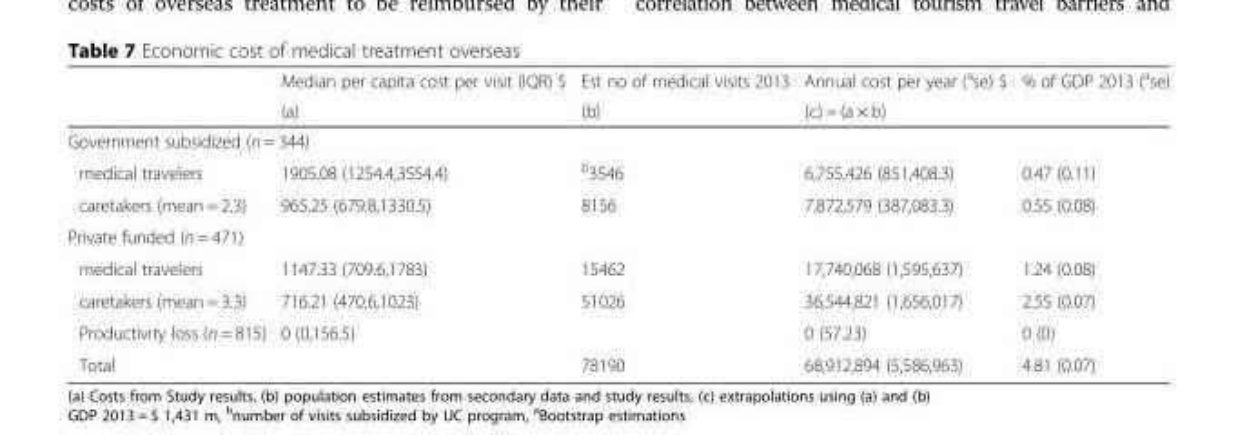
<table><thead><tr><td rowspan="2"></td><td rowspan="2">Median per capita cost per visit (IQR) $ (a)</td><td rowspan="2">Est no of medical visits 2013 (b)</td><td rowspan="2">Annual cost per year (<sup>a</sup>se) $ (c) = (a × b)</td><td rowspan="2">% of GDP 2013 (<sup>a</sup>se)</td></tr><tr></tr></thead><tbody><tr><td colspan="5">Government subsidized (n = 344)</td></tr><tr><td>medical travelers</td><td>1905.08 (1254.4,3554.4)</td><td><sup>b</sup>3546</td><td>6,755,426 (851,408.3)</td><td>0.47 (0.11)</td></tr><tr><td>caretakers (mean = 2.3)</td><td>965.25 (679.8,1330.5)</td><td>8156</td><td>7,872,579 (387,083.3)</td><td>0.55 (0.08)</td></tr><tr><td colspan="5">Private funded (n = 471)</td></tr><tr><td>medical travelers</td><td>1147.33 (709.6,1783)</td><td>15462</td><td>17,740,068 (1,595,637)</td><td>1.24 (0.08)</td></tr><tr><td>caretakers (mean = 3.3)</td><td>716.21 (470.6,1023)</td><td>51026</td><td>36,544,821 (1,656,017)</td><td>2.55 (0.07)</td></tr><tr><td>Productivity loss (n = 815)</td><td>0 (0,156.5)</td><td></td><td>0 (57.23)</td><td>0 (0)</td></tr><tr><td>Total</td><td></td><td>78190</td><td>68,912,894 (5,586,963)</td><td>4.81 (0.07)</td></tr></tbody></table>